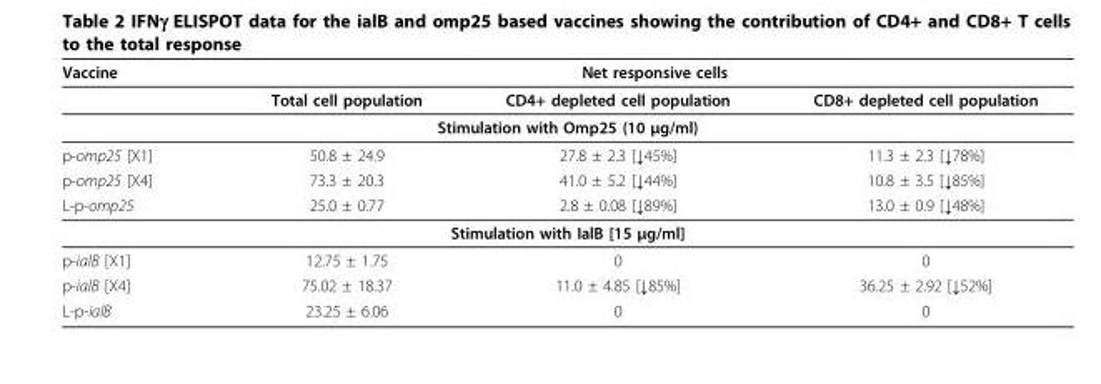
<table><thead><tr><td rowspan="2">Vaccine</td><td colspan="3">Net responsive cells</td></tr><tr><td>Total cell population</td><td>CD4+ depleted cell population</td><td>CD8+ depleted cell population</td></tr></thead><tbody><tr><td colspan="4">Stimulation with Omp25 (10 μg/ml)</td></tr><tr><td>p-omp25 [X1]</td><td>50.8 ± 24.9</td><td>27.8 ± 2.3 [↓45%]</td><td>11.3 ± 2.3 [↓78%]</td></tr><tr><td>p-omp25 [X4]</td><td>73.3 ± 20.3</td><td>41.0 ± 5.2 [↓44%]</td><td>10.8 ± 3.5 [↓85%]</td></tr><tr><td>L-p-omp25</td><td>25.0 ± 0.77</td><td>2.8 ± 0.08 [↓89%]</td><td>13.0 ± 0.9 [↓48%]</td></tr><tr><td colspan="4">Stimulation with IalB [15 μg/ml]</td></tr><tr><td>p-ialB [X1]</td><td>12.75 ± 1.75</td><td>0</td><td>0</td></tr><tr><td>p-ialB [X4]</td><td>75.02 ± 18.37</td><td>11.0 ± 4.85 [↓85%]</td><td>36.25 ± 2.92 [↓52%]</td></tr><tr><td>L-p-ialB</td><td>23.25 ± 6.06</td><td>0</td><td>0</td></tr></tbody></table>